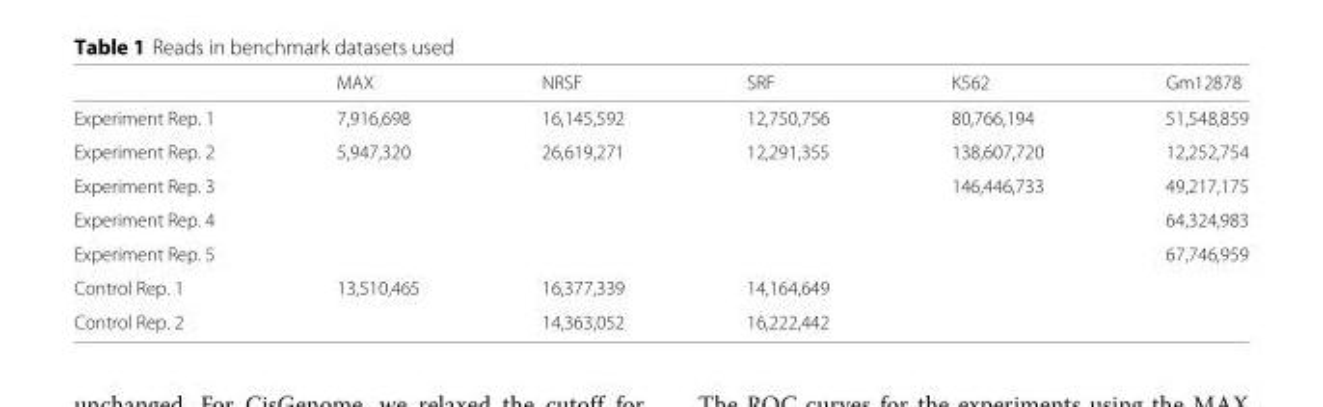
<table><thead><tr><td></td><td>MAX</td><td>NRSF</td><td>SRF</td><td>K562</td><td>Gm12878</td></tr></thead><tbody><tr><td>Experiment Rep. 1</td><td>7,916,698</td><td>16,145,592</td><td>12,750,756</td><td>80,766,194</td><td>51,548,859</td></tr><tr><td>Experiment Rep. 2</td><td>5,947,320</td><td>26,619,271</td><td>12,291,355</td><td>138,607,720</td><td>12,252,754</td></tr><tr><td>Experiment Rep. 3</td><td></td><td></td><td></td><td>146,446,733</td><td>49,217,175</td></tr><tr><td>Experiment Rep. 4</td><td></td><td></td><td></td><td></td><td>64,324,983</td></tr><tr><td>Experiment Rep. 5</td><td></td><td></td><td></td><td></td><td>67,746,959</td></tr><tr><td>Control Rep. 1</td><td>13,510,465</td><td>16,377,339</td><td>14,164,649</td><td></td><td></td></tr><tr><td>Control Rep. 2</td><td></td><td>14,363,052</td><td>16,222,442</td><td></td><td></td></tr></tbody></table>